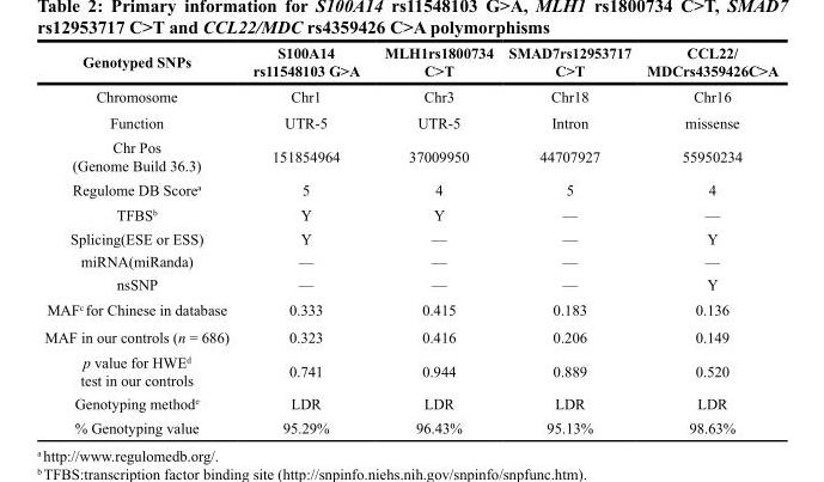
<table><thead><tr><td>Genotyped SNPs</td><td>S100A14 rs11548103 G&gt;A</td><td>MLH1rs1800734 C&gt;T</td><td>SMAD7rs12953717 C&gt;T</td><td>CCL22/ MDCrs4359426C&gt;A</td></tr></thead><tbody><tr><td>Chromosome</td><td>Chr1</td><td>Chr3</td><td>Chr18</td><td>Chr16</td></tr><tr><td>Function</td><td>UTR-5</td><td>UTR-5</td><td>Intron</td><td>missense</td></tr><tr><td>Chr Pos (Genome Build 36.3)</td><td>151854964</td><td>37009950</td><td>44707927</td><td>55950234</td></tr><tr><td>Regulome DB Score<sup>a</sup></td><td>5</td><td>4</td><td>5</td><td>4</td></tr><tr><td>TFBS<sup>b</sup></td><td>Y</td><td>Y</td><td>—</td><td>—</td></tr><tr><td>Splicing(ESE or ESS)</td><td>Y</td><td>—</td><td>—</td><td>Y</td></tr><tr><td>miRNA(miRanda)</td><td>—</td><td>—</td><td>—</td><td>—</td></tr><tr><td>nsSNP</td><td>—</td><td>—</td><td>—</td><td>Y</td></tr><tr><td>MAF<sup>c</sup> for Chinese in database</td><td>0.333</td><td>0.415</td><td>0.183</td><td>0.136</td></tr><tr><td>MAF in our controls (n = 686)</td><td>0.323</td><td>0.416</td><td>0.206</td><td>0.149</td></tr><tr><td>p value for HWE<sup>d</sup> test in our controls</td><td>0.741</td><td>0.944</td><td>0.889</td><td>0.520</td></tr><tr><td>Genotyping method<sup>e</sup></td><td>LDR</td><td>LDR</td><td>LDR</td><td>LDR</td></tr><tr><td>% Genotyping value</td><td>95.29%</td><td>96.43%</td><td>95.13%</td><td>98.63%</td></tr></tbody></table>